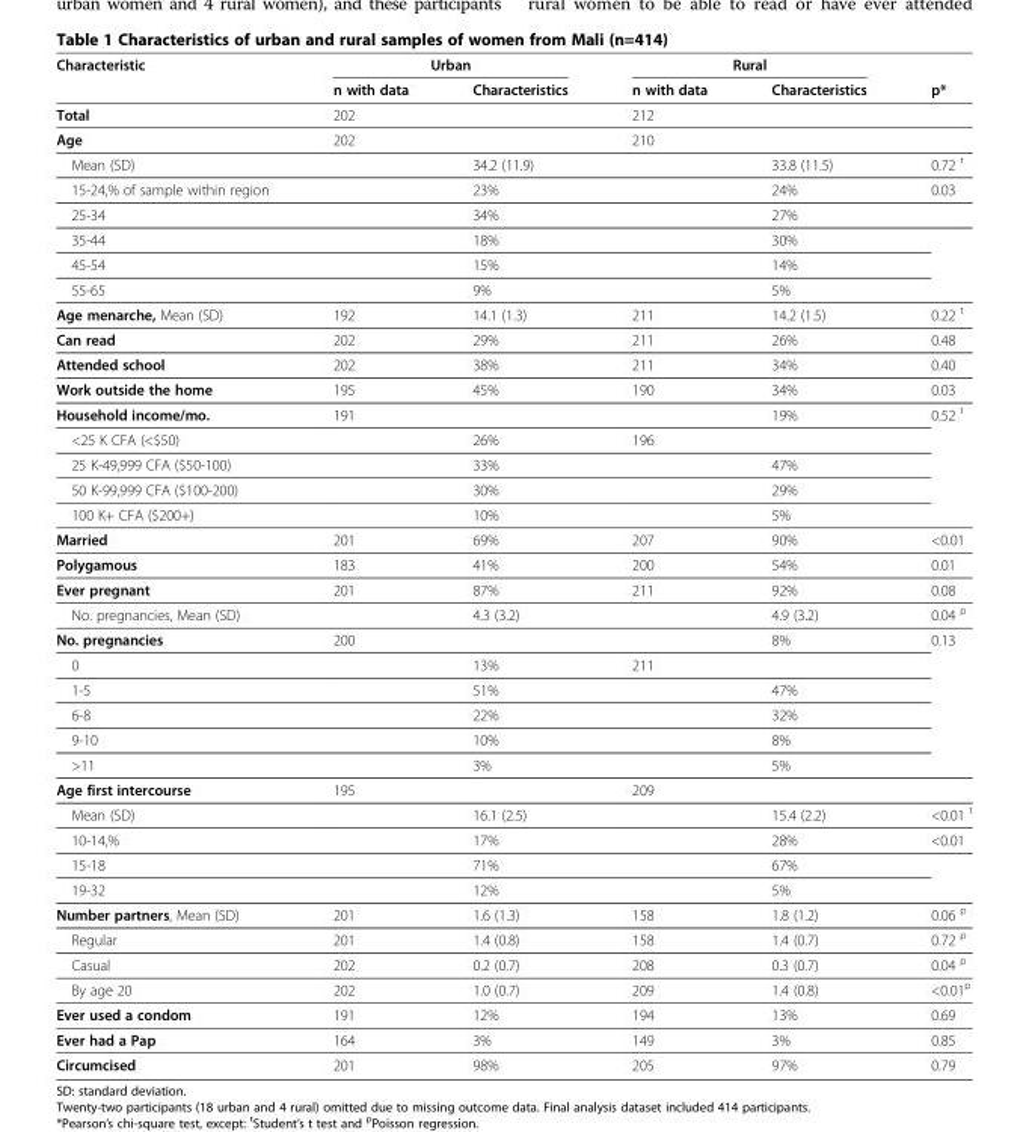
<table><thead><tr><td rowspan="2">Characteristic</td><td colspan="2">Urban</td><td colspan="2">Rural</td><td rowspan="2">p*</td></tr><tr><td>n with data</td><td>Characteristics</td><td>n with data</td><td>Characteristics</td></tr></thead><tbody><tr><td>Total</td><td>202</td><td></td><td>212</td><td></td><td></td></tr><tr><td>Age</td><td>202</td><td></td><td>210</td><td></td><td></td></tr><tr><td>Mean (SD)</td><td></td><td>34.2 (11.9)</td><td></td><td>33.8 (11.5)</td><td>0.72 <sup>t</sup></td></tr><tr><td>15-24,% of sample within region</td><td></td><td>23%</td><td></td><td>24%</td><td>0.03</td></tr><tr><td>25-34</td><td></td><td>34%</td><td></td><td>27%</td><td></td></tr><tr><td>35-44</td><td></td><td>18%</td><td></td><td>30%</td><td rowspan="3"></td></tr><tr><td>45-54</td><td></td><td>15%</td><td></td><td>14%</td></tr><tr><td>55-65</td><td></td><td>9%</td><td></td><td>5%</td></tr><tr><td>Age menarche, Mean (SD)</td><td>192</td><td>14.1 (1.3)</td><td>211</td><td>14.2 (1.5)</td><td>0.22 <sup>t</sup></td></tr><tr><td>Can read</td><td>202</td><td>29%</td><td>211</td><td>26%</td><td>0.48</td></tr><tr><td>Attended school</td><td>202</td><td>38%</td><td>211</td><td>34%</td><td>0.40</td></tr><tr><td>Work outside the home</td><td>195</td><td>45%</td><td>190</td><td>34%</td><td>0.03</td></tr><tr><td>Household income/mo.</td><td>191</td><td></td><td></td><td>19%</td><td>0.52 <sup>t</sup></td></tr><tr><td>&lt;25 K CFA (&lt;$50)</td><td></td><td>26%</td><td>196</td><td></td><td></td></tr><tr><td>25 K-49,999 CFA ($50-100)</td><td></td><td>33%</td><td></td><td>47%</td><td></td></tr><tr><td>50 K-99,999 CFA ($100-200)</td><td></td><td>30%</td><td></td><td>29%</td><td></td></tr><tr><td>100 K+ CFA ($200+)</td><td></td><td>10%</td><td></td><td>5%</td><td></td></tr><tr><td>Married</td><td>201</td><td>69%</td><td>207</td><td>90%</td><td>&lt;0.01</td></tr><tr><td>Polygamous</td><td>183</td><td>41%</td><td>200</td><td>54%</td><td>0.01</td></tr><tr><td>Ever pregnant</td><td>201</td><td>87%</td><td>211</td><td>92%</td><td>0.08</td></tr><tr><td>No. pregnancies, Mean (SD)</td><td></td><td>4.3 (3.2)</td><td></td><td>4.9 (3.2)</td><td>0.04 <sup>p</sup></td></tr><tr><td>No. pregnancies</td><td>200</td><td></td><td></td><td>8%</td><td>0.13</td></tr><tr><td>0</td><td></td><td>13%</td><td>211</td><td></td><td></td></tr><tr><td>1-5</td><td></td><td>51%</td><td></td><td>47%</td><td></td></tr><tr><td>6-8</td><td></td><td>22%</td><td></td><td>32%</td><td></td></tr><tr><td>9-10</td><td></td><td>10%</td><td></td><td>8%</td><td></td></tr><tr><td>&gt;11</td><td></td><td>3%</td><td></td><td>5%</td><td></td></tr><tr><td>Age first intercourse</td><td>195</td><td></td><td>209</td><td></td><td></td></tr><tr><td>Mean (SD)</td><td></td><td>16.1 (2.5)</td><td></td><td>15.4 (2.2)</td><td>&lt;0.01 <sup>t</sup></td></tr><tr><td>10-14,%</td><td></td><td>17%</td><td></td><td>28%</td><td>&lt;0.01</td></tr><tr><td>15-18</td><td></td><td>71%</td><td></td><td>67%</td><td></td></tr><tr><td>19-32</td><td></td><td>12%</td><td></td><td>5%</td><td></td></tr><tr><td>Number partners, Mean (SD)</td><td>201</td><td>1.6 (1.3)</td><td>158</td><td>1.8 (1.2)</td><td>0.06 <sup>p</sup></td></tr><tr><td>Regular</td><td>201</td><td>1.4 (0.8)</td><td>158</td><td>1.4 (0.7)</td><td>0.72 <sup>p</sup></td></tr><tr><td>Casual</td><td>202</td><td>0.2 (0.7)</td><td>208</td><td>0.3 (0.7)</td><td>0.04 <sup>p</sup></td></tr><tr><td>By age 20</td><td>202</td><td>1.0 (0.7)</td><td>209</td><td>1.4 (0.8)</td><td>&lt;0.01<sup>p</sup></td></tr><tr><td>Ever used a condom</td><td>191</td><td>12%</td><td>194</td><td>13%</td><td>0.69</td></tr><tr><td>Ever had a Pap</td><td>164</td><td>3%</td><td>149</td><td>3%</td><td>0.85</td></tr><tr><td>Circumcised</td><td>201</td><td>98%</td><td>205</td><td>97%</td><td>0.79</td></tr></tbody></table>